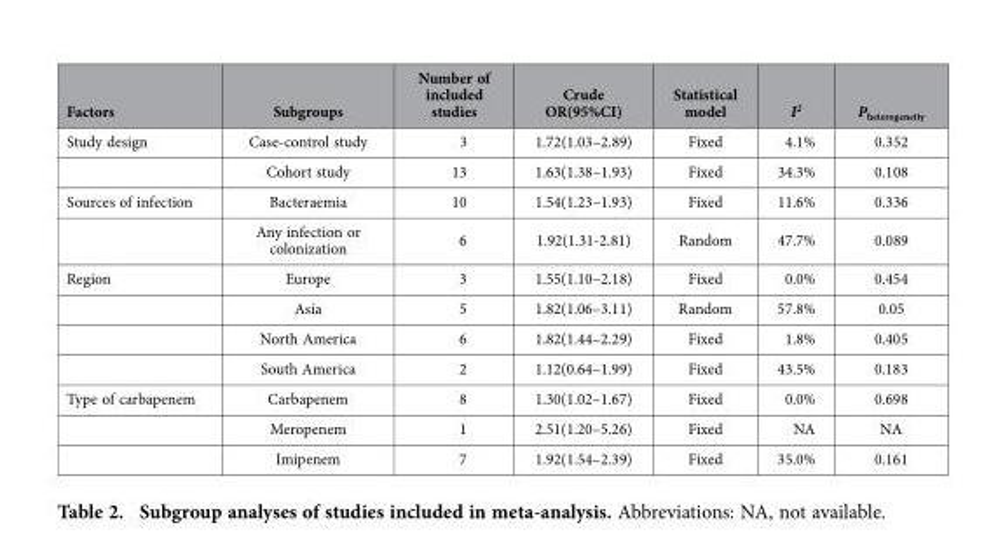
<table><thead><tr><td>Factors</td><td>Subgroups</td><td>Number of included studies</td><td>Crude OR(95%CI)</td><td>Statistical model</td><td>I<sup>2</sup></td><td>P<sub>heterogeneity</sub></td></tr></thead><tbody><tr><td rowspan="2">Study design</td><td>Case-control study</td><td>3</td><td>1.72(1.03–2.89)</td><td>Fixed</td><td>4.1%</td><td>0.352</td></tr><tr><td>Cohort study</td><td>13</td><td>1.63(1.38–1.93)</td><td>Fixed</td><td>34.3%</td><td>0.108</td></tr><tr><td rowspan="2">Sources of infection</td><td>Bacteraemia</td><td>10</td><td>1.54(1.23–1.93)</td><td>Fixed</td><td>11.6%</td><td>0.336</td></tr><tr><td>Any infection or colonization</td><td>6</td><td>1.92(1.31-2.81)</td><td>Random</td><td>47.7%</td><td>0.089</td></tr><tr><td rowspan="4">Region</td><td>Europe</td><td>3</td><td>1.55(1.10–2.18)</td><td>Fixed</td><td>0.0%</td><td>0.454</td></tr><tr><td>Asia</td><td>5</td><td>1.82(1.06–3.11)</td><td>Random</td><td>57.8%</td><td>0.05</td></tr><tr><td>North America</td><td>6</td><td>1.82(1.44–2.29)</td><td>Fixed</td><td>1.8%</td><td>0.405</td></tr><tr><td>South America</td><td>2</td><td>1.12(0.64–1.99)</td><td>Fixed</td><td>43.5%</td><td>0.183</td></tr><tr><td rowspan="3">Type of carbapenem</td><td>Carbapenem</td><td>8</td><td>1.30(1.02–1.67)</td><td>Fixed</td><td>0.0%</td><td>0.698</td></tr><tr><td>Meropenem</td><td>1</td><td>2.51(1.20–5.26)</td><td>Fixed</td><td>NA</td><td>NA</td></tr><tr><td>Imipenem</td><td>7</td><td>1.92(1.54–2.39)</td><td>Fixed</td><td>35.0%</td><td>0.161</td></tr></tbody></table>